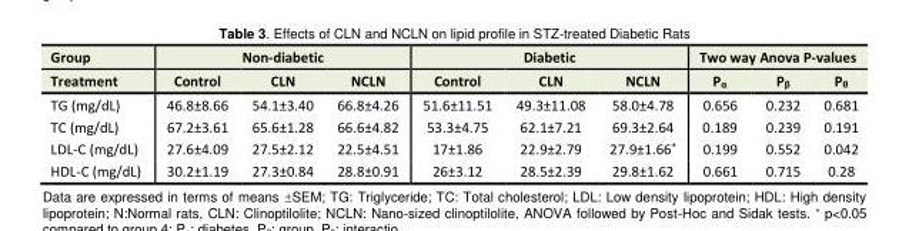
<table><tbody><tr><td>Group</td><td colspan="3">Non-diabetic</td><td colspan="3">Diabetic</td><td colspan="3">Two way Anova P-values</td></tr><tr><td>Treatment</td><td>Control</td><td>CLN</td><td>NCLN</td><td>Control</td><td>CLN</td><td>NCLN</td><td>P<sub>α</sub></td><td>P<sub>β</sub></td><td>P<sub>θ</sub></td></tr><tr><td>TG (mg/dL)</td><td>46.8±8.66</td><td>54.1±3.40</td><td>66.8±4.26</td><td>51.6±11.51</td><td>49.3±11.08</td><td>58.0±4.78</td><td>0.656</td><td>0.232</td><td>0.681</td></tr><tr><td>TC (mg/dL)</td><td>67.2±3.61</td><td>65.6±1.28</td><td>66.6±4.82</td><td>53.3±4.75</td><td>62.1±7.21</td><td>69.3±2.64</td><td>0.189</td><td>0.239</td><td>0.191</td></tr><tr><td>LDL-C (mg/dL)</td><td>27.6±4.09</td><td>27.5±2.12</td><td>22.5±4.51</td><td>17±1.86</td><td>22.9±2.79</td><td>27.9±1.66*</td><td>0.199</td><td>0.552</td><td>0.042</td></tr><tr><td>HDL-C (mg/dL)</td><td>30.2±1.19</td><td>27.3±0.84</td><td>28.8±0.91</td><td>26±3.12</td><td>28.5±2.39</td><td>29.8±1.62</td><td>0.661</td><td>0.715</td><td>0.28</td></tr></tbody></table>